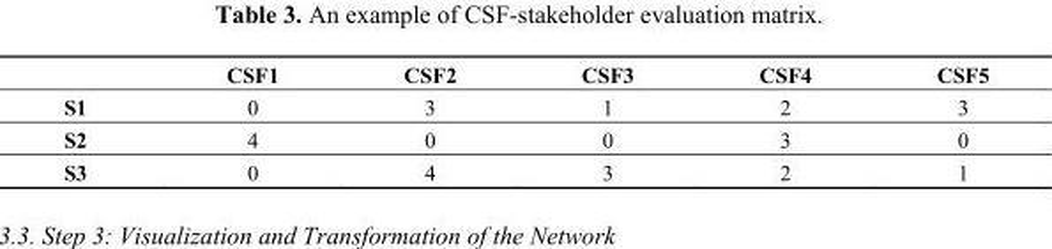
<table><thead><tr><td></td><td>CSF1</td><td>CSF2</td><td>CSF3</td><td>CSF4</td><td>CSF5</td></tr></thead><tbody><tr><td>S1</td><td>0</td><td>3</td><td>1</td><td>2</td><td>3</td></tr><tr><td>S2</td><td>4</td><td>0</td><td>0</td><td>3</td><td>0</td></tr><tr><td>S3</td><td>0</td><td>4</td><td>3</td><td>2</td><td>1</td></tr></tbody></table>